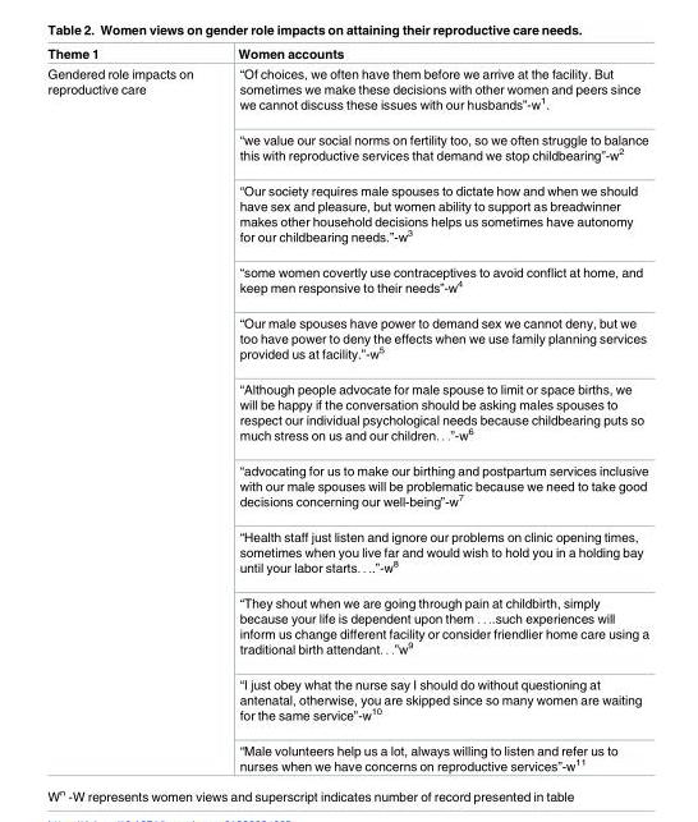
<table><thead><tr><td>Theme 1</td><td>Women accounts</td></tr></thead><tbody><tr><td rowspan="11">Gendered role impacts on reproductive care</td><td>“Of choices, we often have them before we arrive at the facility. But sometimes we make these decisions with other women and peers since we cannot discuss these issues with our husbands”-w<sup>1</sup>.</td></tr><tr><td>“we value our social norms on fertility too, so we often struggle to balance this with reproductive services that demand we stop childbearing”-w<sup>2</sup></td></tr><tr><td>“Our society requires male spouses to dictate how and when we should have sex and pleasure, but women ability to support as breadwinner makes other household decisions helps us sometimes have autonomy for our childbearing needs.”-w<sup>3</sup></td></tr><tr><td>“some women covertly use contraceptives to avoid conflict at home, and keep men responsive to their needs”-w<sup>4</sup></td></tr><tr><td>“Our male spouses have power to demand sex we cannot deny, but we too have power to deny the effects when we use family planning services provided us at facility.”-w<sup>5</sup></td></tr><tr><td>“Although people advocate for male spouse to limit or space births, we will be happy if the conversation should be asking males spouses to respect our individual psychological needs because childbearing puts so much stress on us and our children. . .”-w<sup>6</sup></td></tr><tr><td>“advocating for us to make our birthing and postpartum services inclusive with our male spouses will be problematic because we need to take good decisions concerning our well-being”-w<sup>7</sup></td></tr><tr><td>“Health staff just listen and ignore our problems on clinic opening times, sometimes when you live far and would wish to hold you in a holding bay until your labor starts. . ..”-w<sup>8</sup></td></tr><tr><td>“They shout when we are going through pain at childbirth, simply because your life is dependent upon them . . ..such experiences will inform us change different facility or consider friendlier home care using a traditional birth attendant. . .”w<sup>9</sup></td></tr><tr><td>“I just obey what the nurse say I should do without questioning at antenatal, otherwise, you are skipped since so many women are waiting for the same service”-w<sup>10</sup></td></tr><tr><td>“Male volunteers help us a lot, always willing to listen and refer us to nurses when we have concerns on reproductive services”-w<sup>11</sup></td></tr></tbody></table>